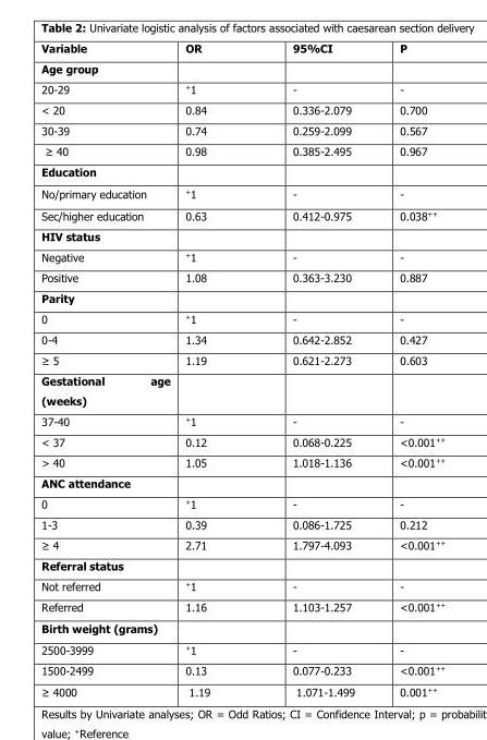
<table><thead><tr><td>Variable</td><td>OR</td><td>95%CI</td><td>P</td></tr></thead><tbody><tr><td colspan="4">Age group</td></tr><tr><td>20-29</td><td><sup>+</sup>1</td><td>-</td><td>-</td></tr><tr><td>&lt; 20</td><td>0.84</td><td>0.336-2.079</td><td>0.700</td></tr><tr><td>30-39</td><td>0.74</td><td>0.259-2.099</td><td>0.567</td></tr><tr><td>≥ 40</td><td>0.98</td><td>0.385-2.495</td><td>0.967</td></tr><tr><td colspan="4">Education</td></tr><tr><td>No/primary education</td><td><sup>+</sup>1</td><td>-</td><td>-</td></tr><tr><td>Sec/higher education</td><td>0.63</td><td>0.412-0.975</td><td>0.038<sup>++</sup></td></tr><tr><td colspan="4">HIV status</td></tr><tr><td>Negative</td><td><sup>+</sup>1</td><td>-</td><td>-</td></tr><tr><td>Positive</td><td>1.08</td><td>0.363-3.230</td><td>0.887</td></tr><tr><td colspan="4">Parity</td></tr><tr><td>0</td><td><sup>+</sup>1</td><td>-</td><td>-</td></tr><tr><td>0-4</td><td>1.34</td><td>0.642-2.852</td><td>0.427</td></tr><tr><td>≥ 5</td><td>1.19</td><td>0.621-2.273</td><td>0.603</td></tr><tr><td colspan="4">Gestational age (weeks)</td></tr><tr><td>37-40</td><td><sup>+</sup>1</td><td>-</td><td>-</td></tr><tr><td>&lt; 37</td><td>0.12</td><td>0.068-0.225</td><td>&lt;0.001<sup>++</sup></td></tr><tr><td>&gt; 40</td><td>1.05</td><td>1.018-1.136</td><td>&lt;0.001<sup>++</sup></td></tr><tr><td colspan="4">ANC attendance</td></tr><tr><td>0</td><td><sup>+</sup>1</td><td>-</td><td>-</td></tr><tr><td>1-3</td><td>0.39</td><td>0.086-1.725</td><td>0.212</td></tr><tr><td>≥ 4</td><td>2.71</td><td>1.797-4.093</td><td>&lt;0.001<sup>++</sup></td></tr><tr><td colspan="4">Referral status</td></tr><tr><td>Not referred</td><td><sup>+</sup>1</td><td>-</td><td>-</td></tr><tr><td>Referred</td><td>1.16</td><td>1.103-1.257</td><td>&lt;0.001<sup>++</sup></td></tr><tr><td colspan="4">Birth weight (grams)</td></tr><tr><td>2500-3999</td><td><sup>+</sup>1</td><td>-</td><td>-</td></tr><tr><td>1500-2499</td><td>0.13</td><td>0.077-0.233</td><td>&lt;0.001<sup>++</sup></td></tr><tr><td>≥ 4000</td><td>1.19</td><td>1.071-1.499</td><td>0.001<sup>++</sup></td></tr></tbody></table>